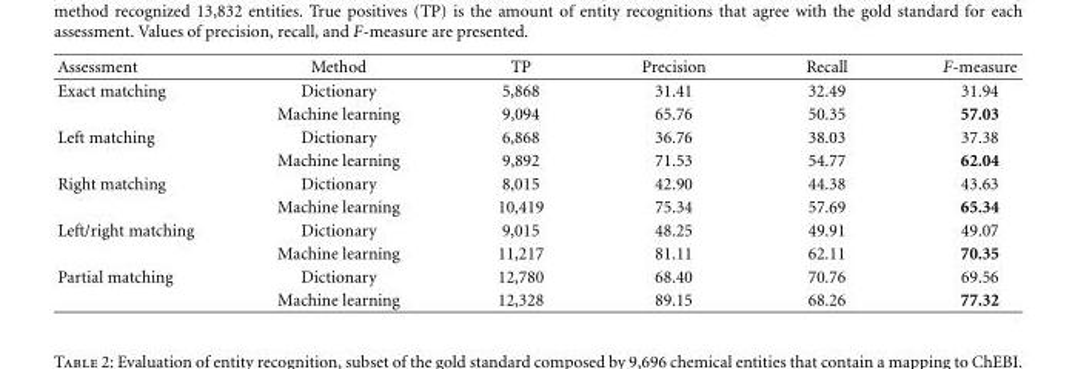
<table><thead><tr><td>Assessment</td><td>Method</td><td>TP</td><td>Precision</td><td>Recall</td><td>F-measure</td></tr></thead><tbody><tr><td rowspan="2">Exact matching</td><td>Dictionary</td><td>5,868</td><td>31.41</td><td>32.49</td><td>31.94</td></tr><tr><td>Machine learning</td><td>9,094</td><td>65.76</td><td>50.35</td><td>57.03</td></tr><tr><td rowspan="2">Left matching</td><td>Dictionary</td><td>6,868</td><td>36.76</td><td>38.03</td><td>37.38</td></tr><tr><td>Machine learning</td><td>9,892</td><td>71.53</td><td>54.77</td><td>62.04</td></tr><tr><td rowspan="2">Right matching</td><td>Dictionary</td><td>8,015</td><td>42.90</td><td>44.38</td><td>43.63</td></tr><tr><td>Machine learning</td><td>10,419</td><td>75.34</td><td>57.69</td><td>65.34</td></tr><tr><td rowspan="2">Left/right matching</td><td>Dictionary</td><td>9,015</td><td>48.25</td><td>49.91</td><td>49.07</td></tr><tr><td>Machine learning</td><td>11,217</td><td>81.11</td><td>62.11</td><td>70.35</td></tr><tr><td rowspan="2">Partial matching</td><td>Dictionary</td><td>12,780</td><td>68.40</td><td>70.76</td><td>69.56</td></tr><tr><td>Machine learning</td><td>12,328</td><td>89.15</td><td>68.26</td><td>77.32</td></tr></tbody></table>